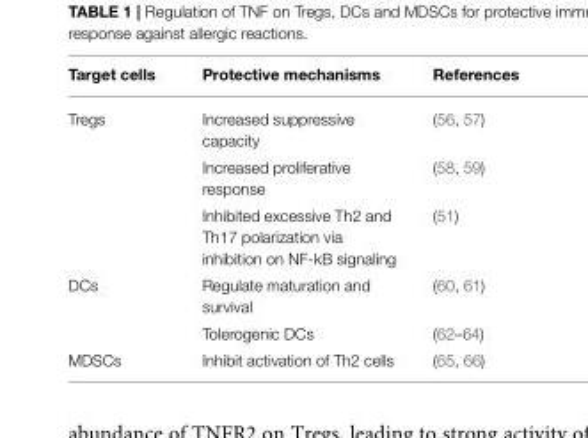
<table><thead><tr><td>Target cells</td><td>Protective mechanisms</td><td>References</td></tr></thead><tbody><tr><td rowspan="3">Tregs</td><td>Increased suppressive capacity</td><td>(56, 57)</td></tr><tr><td>Increased proliferative response</td><td>(58, 59)</td></tr><tr><td>Inhibited excessive Th2 and Th17 polarization via inhibition on NF-kB signaling</td><td>(51)</td></tr><tr><td rowspan="2">DCs</td><td>Regulate maturation and survival</td><td>(60, 61)</td></tr><tr><td>Tolerogenic DCs</td><td>(62–64)</td></tr><tr><td>MDSCs</td><td>Inhibit activation of Th2 cells</td><td>(65, 66)</td></tr></tbody></table>